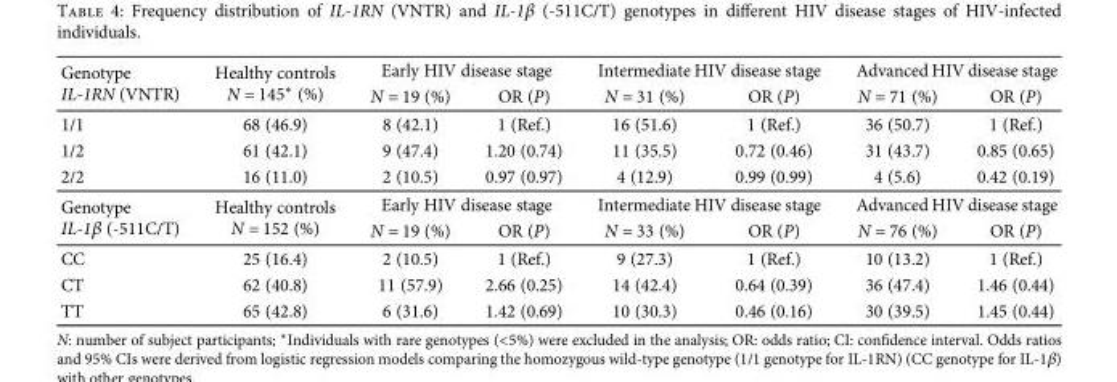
<table><tbody><tr><td rowspan="2">Genotype IL-1RN (VNTR)</td><td rowspan="2">Healthy controls N = 145∗ (%)</td><td colspan="2">Early HIV disease stage</td><td colspan="2">Intermediate HIV disease stage</td><td colspan="2">Advanced HIV disease stage</td></tr><tr><td>N = 19 (%)</td><td>OR (P)</td><td>N = 31 (%)</td><td>OR (P)</td><td>N = 71 (%)</td><td>OR (P)</td></tr><tr><td>1/1</td><td>68 (46.9)</td><td>8 (42.1)</td><td>1 (Ref.)</td><td>16 (51.6)</td><td>1 (Ref.)</td><td>36 (50.7)</td><td>1 (Ref.)</td></tr><tr><td>1/2</td><td>61 (42.1)</td><td>9 (47.4)</td><td>1.20 (0.74)</td><td>11 (35.5)</td><td>0.72 (0.46)</td><td>31 (43.7)</td><td>0.85 (0.65)</td></tr><tr><td>2/2</td><td>16 (11.0)</td><td>2 (10.5)</td><td>0.97 (0.97)</td><td>4 (12.9)</td><td>0.99 (0.99)</td><td>4 (5.6)</td><td>0.42 (0.19)</td></tr><tr><td rowspan="2">Genotype IL-1β (-511C/T)</td><td rowspan="2">Healthy controls N = 152 (%)</td><td colspan="2">Early HIV disease stage</td><td colspan="2">Intermediate HIV disease stage</td><td colspan="2">Advanced HIV disease stage</td></tr><tr><td>N = 19 (%)</td><td>OR (P)</td><td>N = 33 (%)</td><td>OR (P)</td><td>N = 76 (%)</td><td>OR (P)</td></tr><tr><td>CC</td><td>25 (16.4)</td><td>2 (10.5)</td><td>1 (Ref.)</td><td>9 (27.3)</td><td>1 (Ref.)</td><td>10 (13.2)</td><td>1 (Ref.)</td></tr><tr><td>CT</td><td>62 (40.8)</td><td>11 (57.9)</td><td>2.66 (0.25)</td><td>14 (42.4)</td><td>0.64 (0.39)</td><td>36 (47.4)</td><td>1.46 (0.44)</td></tr><tr><td>TT</td><td>65 (42.8)</td><td>6 (31.6)</td><td>1.42 (0.69)</td><td>10 (30.3)</td><td>0.46 (0.16)</td><td>30 (39.5)</td><td>1.45 (0.44)</td></tr></tbody></table>